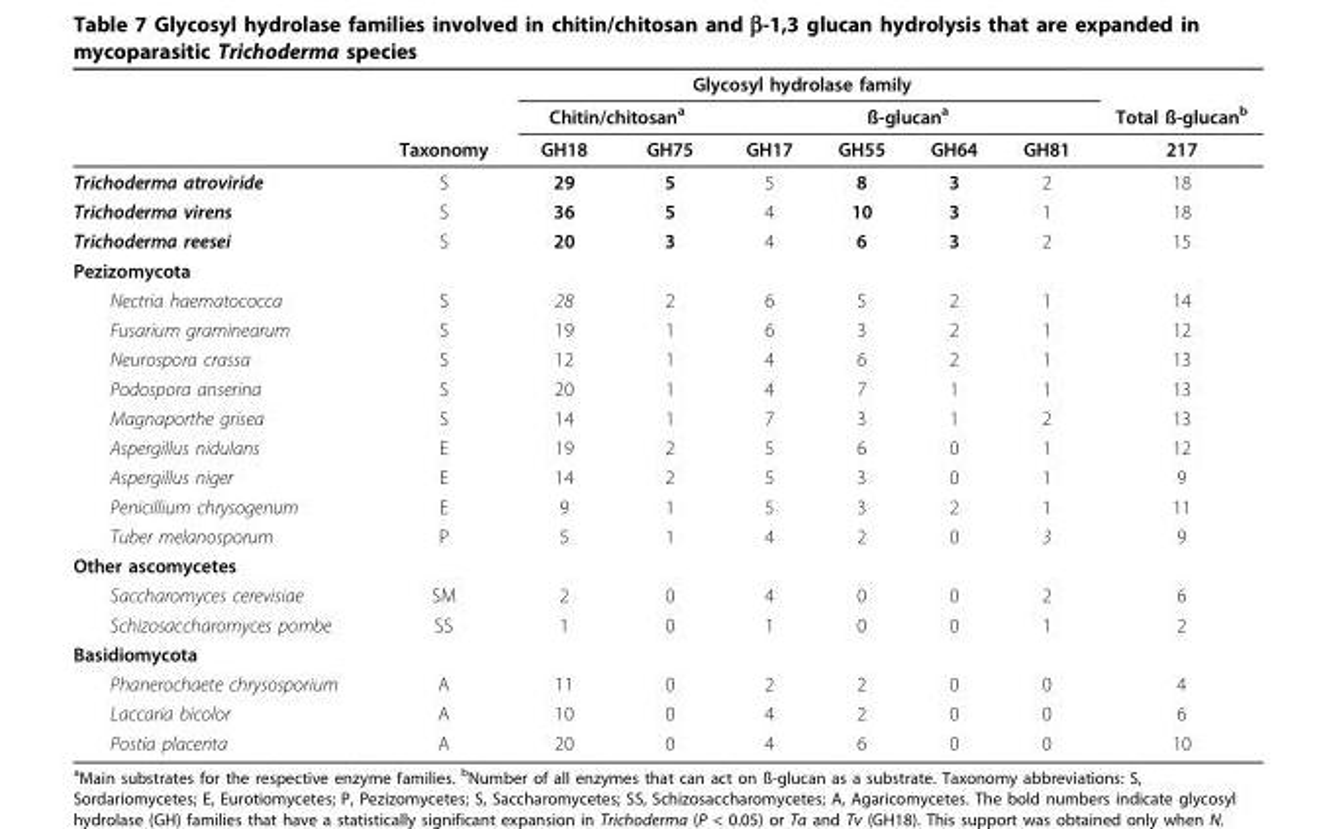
<table><thead><tr><td rowspan="3"></td><td rowspan="3">Taxonomy</td><td colspan="6">Glycosyl hydrolase family</td><td rowspan="3">Total ß-glucan<sup>b</sup> 217</td></tr><tr><td colspan="2">Chitin/chitosan<sup>a</sup></td><td colspan="4">ß-glucan<sup>a</sup></td></tr><tr><td>GH18</td><td>GH75</td><td>GH17</td><td>GH55</td><td>GH64</td><td>GH81</td></tr></thead><tbody><tr><td>Trichoderma atroviride</td><td>S</td><td>29</td><td>5</td><td>5</td><td>8</td><td>3</td><td>2</td><td>18</td></tr><tr><td>Trichoderma virens</td><td>S</td><td>36</td><td>5</td><td>4</td><td>10</td><td>3</td><td>1</td><td>18</td></tr><tr><td>Trichoderma reesei</td><td>S</td><td>20</td><td>3</td><td>4</td><td>6</td><td>3</td><td>2</td><td>15</td></tr><tr><td colspan="9">Pezizomycota</td></tr><tr><td>Nectria haematococca</td><td>S</td><td>28</td><td>2</td><td>6</td><td>5</td><td>2</td><td>1</td><td>14</td></tr><tr><td>Fusarium graminearum</td><td>S</td><td>19</td><td>1</td><td>6</td><td>3</td><td>2</td><td>1</td><td>12</td></tr><tr><td>Neurospora crassa</td><td>S</td><td>12</td><td>1</td><td>4</td><td>6</td><td>2</td><td>1</td><td>13</td></tr><tr><td>Podospora anserina</td><td>S</td><td>20</td><td>1</td><td>4</td><td>7</td><td>1</td><td>1</td><td>13</td></tr><tr><td>Magnaporthe grisea</td><td>S</td><td>14</td><td>1</td><td>7</td><td>3</td><td>1</td><td>2</td><td>13</td></tr><tr><td>Aspergillus nidulans</td><td>E</td><td>19</td><td>2</td><td>5</td><td>6</td><td>0</td><td>1</td><td>12</td></tr><tr><td>Aspergillus niger</td><td>E</td><td>14</td><td>2</td><td>5</td><td>3</td><td>0</td><td>1</td><td>9</td></tr><tr><td>Penicillium chrysogenum</td><td>E</td><td>9</td><td>1</td><td>5</td><td>3</td><td>2</td><td>1</td><td>11</td></tr><tr><td>Tuber melanosporum</td><td>P</td><td>5</td><td>1</td><td>4</td><td>2</td><td>0</td><td>3</td><td>9</td></tr><tr><td colspan="9">Other ascomycetes</td></tr><tr><td>Saccharomyces cerevisiae</td><td>SM</td><td>2</td><td>0</td><td>4</td><td>0</td><td>0</td><td>2</td><td>6</td></tr><tr><td>Schizosaccharomyces pombe</td><td>SS</td><td>1</td><td>0</td><td>1</td><td>0</td><td>0</td><td>1</td><td>2</td></tr><tr><td colspan="9">Basidiomycota</td></tr><tr><td>Phanerochaete chrysosporium</td><td>A</td><td>11</td><td>0</td><td>2</td><td>2</td><td>0</td><td>0</td><td>4</td></tr><tr><td>Laccaria bicolor</td><td>A</td><td>10</td><td>0</td><td>4</td><td>2</td><td>0</td><td>0</td><td>6</td></tr><tr><td>Postia placenta</td><td>A</td><td>20</td><td>0</td><td>4</td><td>6</td><td>0</td><td>0</td><td>10</td></tr></tbody></table>